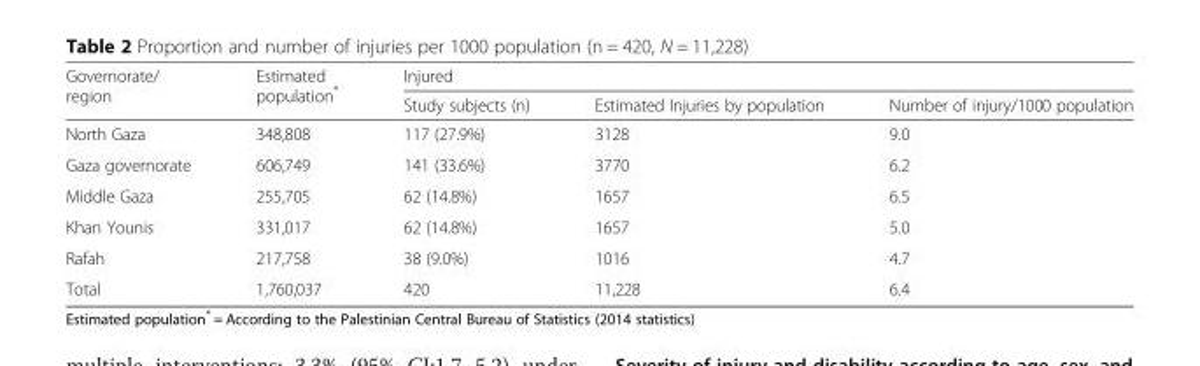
<table><thead><tr><td rowspan="2">Governorate/ region</td><td rowspan="2">Estimated population*</td><td colspan="3">Injured</td></tr><tr><td>Study subjects (n)</td><td>Estimated Injuries by population</td><td>Number of injury/1000 population</td></tr></thead><tbody><tr><td>North Gaza</td><td>348,808</td><td>117 (27.9%)</td><td>3128</td><td>9.0</td></tr><tr><td>Gaza governorate</td><td>606,749</td><td>141 (33.6%)</td><td>3770</td><td>6.2</td></tr><tr><td>Middle Gaza</td><td>255,705</td><td>62 (14.8%)</td><td>1657</td><td>6.5</td></tr><tr><td>Khan Younis</td><td>331,017</td><td>62 (14.8%)</td><td>1657</td><td>5.0</td></tr><tr><td>Rafah</td><td>217,758</td><td>38 (9.0%)</td><td>1016</td><td>4.7</td></tr><tr><td>Total</td><td>1,760,037</td><td>420</td><td>11,228</td><td>6.4</td></tr></tbody></table>